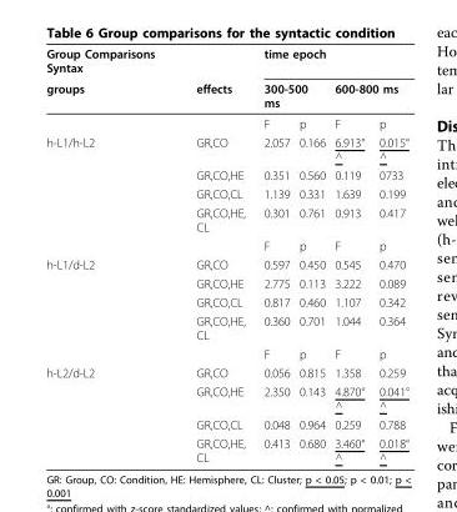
<table><thead><tr><td rowspan="2">Group Comparisons Syntax groups</td><td rowspan="2">effects</td><td colspan="4">time epoch</td></tr><tr><td colspan="2">300-500 ms</td><td colspan="2">600-800 ms</td></tr><tr><td colspan="2"></td><td>F</td><td>p</td><td>F</td><td>p</td></tr></thead><tbody><tr><td rowspan="4">h-L1/h-L2</td><td>GR,CO</td><td>2.057</td><td>0.166</td><td>6.913° ^</td><td>0.015° ^</td></tr><tr><td>GR,CO,HE</td><td>0.351</td><td>0.560</td><td>0.119</td><td>0733</td></tr><tr><td>GR,CO,CL</td><td>1.139</td><td>0.331</td><td>1.639</td><td>0.199</td></tr><tr><td>GR,CO,HE, CL</td><td>0.301</td><td>0.761</td><td>0.913</td><td>0.417</td></tr><tr><td colspan="2"></td><td>F</td><td>p</td><td>F</td><td>p</td></tr><tr><td rowspan="4">h-L1/d-L2</td><td>GR,CO</td><td>0.597</td><td>0.450</td><td>0.545</td><td>0.470</td></tr><tr><td>GR,CO,HE</td><td>2.775</td><td>0.113</td><td>3.222</td><td>0.089</td></tr><tr><td>GR,CO,CL</td><td>0.817</td><td>0.460</td><td>1.107</td><td>0.342</td></tr><tr><td>GR,CO,HE, CL</td><td>0.360</td><td>0.701</td><td>1.044</td><td>0.364</td></tr><tr><td colspan="2"></td><td>F</td><td>p</td><td>F</td><td>p</td></tr><tr><td rowspan="4">h-L2/d-L2</td><td>GR,CO</td><td>0.056</td><td>0.815</td><td>1.358</td><td>0.259</td></tr><tr><td>GR,CO,HE</td><td>2.350</td><td>0.143</td><td>4.870° ^</td><td>0.041° ^</td></tr><tr><td>GR,CO,CL</td><td>0.048</td><td>0.964</td><td>0.259</td><td>0.788</td></tr><tr><td>GR,CO,HE, CL</td><td>0.413</td><td>0.680</td><td>3.460° ^</td><td>0.018° ^</td></tr></tbody></table>